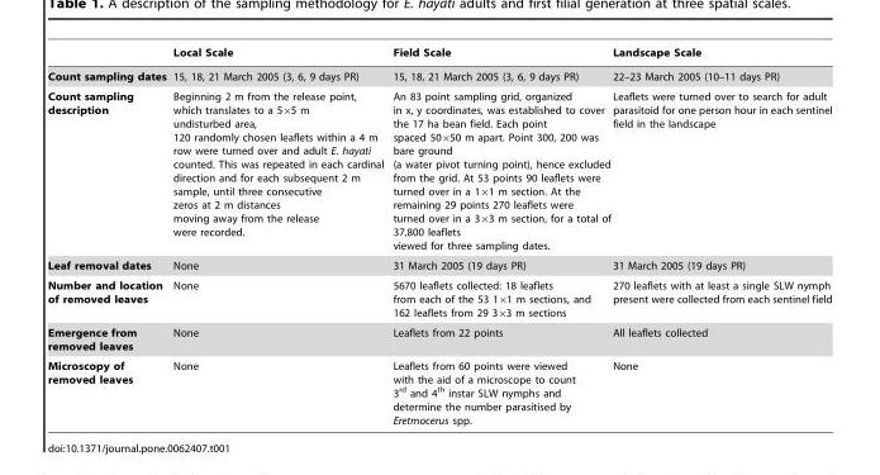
<table><thead><tr><td></td><td>Local Scale</td><td>Field Scale</td><td>Landscape Scale</td></tr></thead><tbody><tr><td>Count sampling dates</td><td>15, 18, 21 March 2005 (3, 6, 9 days PR)</td><td>15, 18, 21 March 2005 (3, 6, 9 days PR)</td><td>22–23 March 2005 (10–11 days PR)</td></tr><tr><td>Count sampling description</td><td>Beginning 2 m from the release point, which translates to a 5×5 m undisturbed area, 120 randomly chosen leaflets within a 4 m row were turned over and adult E. hayati counted. This was repeated in each cardinal direction and for each subsequent 2 m sample, until three consecutive zeros at 2 m distances moving away from the release were recorded.</td><td>An 83 point sampling grid, organized in x, y coordinates, was established to cover the 17 ha bean field. Each point spaced 50×50 m apart. Point 300, 200 was bare ground (a water pivot turning point), hence excluded from the grid. At 53 points 90 leaflets were turned over in a 1×1 m section. At the remaining 29 points 270 leaflets were turned over in a 3×3 m section, for a total of 37,800 leaflets viewed for three sampling dates.</td><td>Leaflets were turned over to search for adult parasitoid for one person hour in each sentinel field in the landscape</td></tr><tr><td>Leaf removal dates</td><td>None</td><td>31 March 2005 (19 days PR)</td><td>31 March 2005 (19 days PR)</td></tr><tr><td>Number and location of removed leaves</td><td>None</td><td>5670 leaflets collected: 18 leaflets from each of the 53 1×1 m sections, and 162 leaflets from 29 3×3 m sections</td><td>270 leaflets with at least a single SLW nymph present were collected from each sentinel field</td></tr><tr><td>Emergence from removed leaves</td><td>None</td><td>Leaflets from 22 points</td><td>All leaflets collected</td></tr><tr><td>Microscopy of removed leaves</td><td>None</td><td>Leaflets from 60 points were viewed with the aid of a microscope to count 3<sup>rd</sup> and 4<sup>th</sup> instar SLW nymphs and determine the number parasitised by Eretmocerus spp.</td><td>None</td></tr></tbody></table>